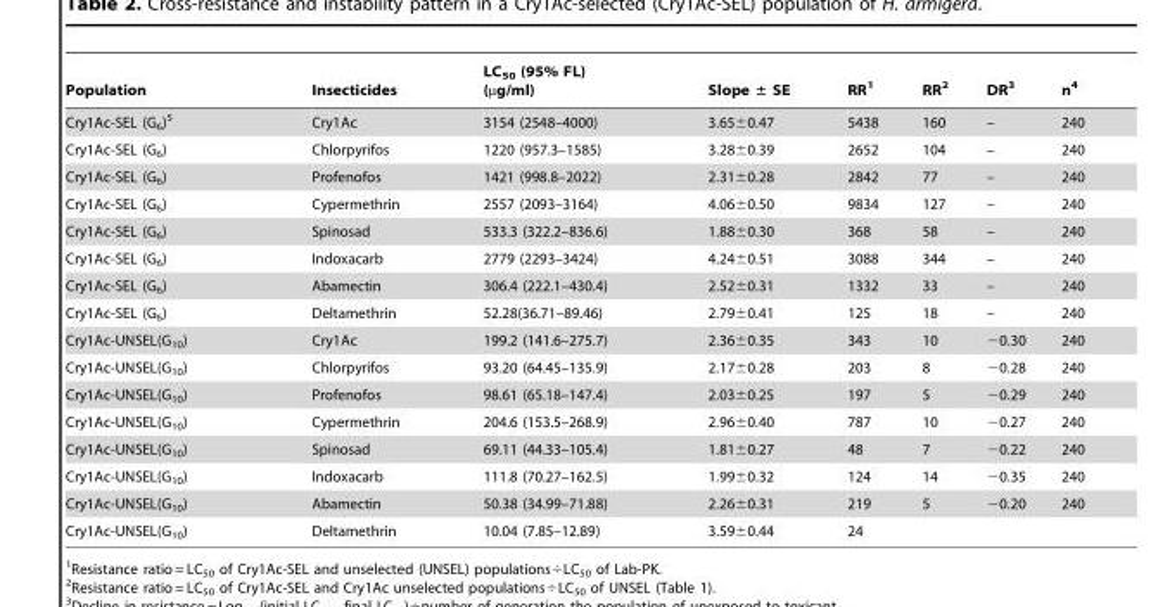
<table><thead><tr><td>Population</td><td>Insecticides</td><td>LC<sub>50</sub> (95% FL) (µg/ml)</td><td>Slope ± SE</td><td>RR<sup>1</sup></td><td>RR<sup>2</sup></td><td>DR<sup>3</sup></td><td>n<sup>4</sup></td></tr></thead><tbody><tr><td>Cry1Ac-SEL (G<sub>6</sub>)<sup>5</sup></td><td>Cry1Ac</td><td>3154 (2548–4000)</td><td>3.65±0.47</td><td>5438</td><td>160</td><td>–</td><td>240</td></tr><tr><td>Cry1Ac-SEL (G<sub>6</sub>)</td><td>Chlorpyrifos</td><td>1220 (957.3–1585)</td><td>3.28±0.39</td><td>2652</td><td>104</td><td>–</td><td>240</td></tr><tr><td>Cry1Ac-SEL (G<sub>6</sub>)</td><td>Profenofos</td><td>1421 (998.8–2022)</td><td>2.31±0.28</td><td>2842</td><td>77</td><td>–</td><td>240</td></tr><tr><td>Cry1Ac-SEL (G<sub>6</sub>)</td><td>Cypermethrin</td><td>2557 (2093–3164)</td><td>4.06±0.50</td><td>9834</td><td>127</td><td>–</td><td>240</td></tr><tr><td>Cry1Ac-SEL (G<sub>6</sub>)</td><td>Spinosad</td><td>533.3 (322.2–836.6)</td><td>1.88±0.30</td><td>368</td><td>58</td><td>–</td><td>240</td></tr><tr><td>Cry1Ac-SEL (G<sub>6</sub>)</td><td>Indoxacarb</td><td>2779 (2293–3424)</td><td>4.24±0.51</td><td>3088</td><td>344</td><td>–</td><td>240</td></tr><tr><td>Cry1Ac-SEL (G<sub>6</sub>)</td><td>Abamectin</td><td>306.4 (222.1–430.4)</td><td>2.52±0.31</td><td>1332</td><td>33</td><td>–</td><td>240</td></tr><tr><td>Cry1Ac-SEL (G<sub>6</sub>)</td><td>Deltamethrin</td><td>52.28(36.71–89.46)</td><td>2.79±0.41</td><td>125</td><td>18</td><td>–</td><td>240</td></tr><tr><td>Cry1Ac-UNSEL(G<sub>10</sub>)</td><td>Cry1Ac</td><td>199.2 (141.6–275.7)</td><td>2.36±0.35</td><td>343</td><td>10</td><td>−0.30</td><td>240</td></tr><tr><td>Cry1Ac-UNSEL(G<sub>10</sub>)</td><td>Chlorpyrifos</td><td>93.20 (64.45–135.9)</td><td>2.17±0.28</td><td>203</td><td>8</td><td>−0.28</td><td>240</td></tr><tr><td>Cry1Ac-UNSEL(G<sub>10</sub>)</td><td>Profenofos</td><td>98.61 (65.18–147.4)</td><td>2.03±0.25</td><td>197</td><td>5</td><td>−0.29</td><td>240</td></tr><tr><td>Cry1Ac-UNSEL(G<sub>10</sub>)</td><td>Cypermethrin</td><td>204.6 (153.5–268.9)</td><td>2.96±0.40</td><td>787</td><td>10</td><td>−0.27</td><td>240</td></tr><tr><td>Cry1Ac-UNSEL(G<sub>10</sub>)</td><td>Spinosad</td><td>69.11 (44.33–105.4)</td><td>1.81±0.27</td><td>48</td><td>7</td><td>−0.22</td><td>240</td></tr><tr><td>Cry1Ac-UNSEL(G<sub>10</sub>)</td><td>Indoxacarb</td><td>111.8 (70.27–162.5)</td><td>1.99±0.32</td><td>124</td><td>14</td><td>−0.35</td><td>240</td></tr><tr><td>Cry1Ac-UNSEL(G<sub>10</sub>)</td><td>Abamectin</td><td>50.38 (34.99–71.88)</td><td>2.26±0.31</td><td>219</td><td>5</td><td>−0.20</td><td>240</td></tr><tr><td>Cry1Ac-UNSEL(G<sub>10</sub>)</td><td>Deltamethrin</td><td>10.04 (7.85–12.89)</td><td>3.59±0.44</td><td>24</td><td></td><td></td><td></td></tr></tbody></table>